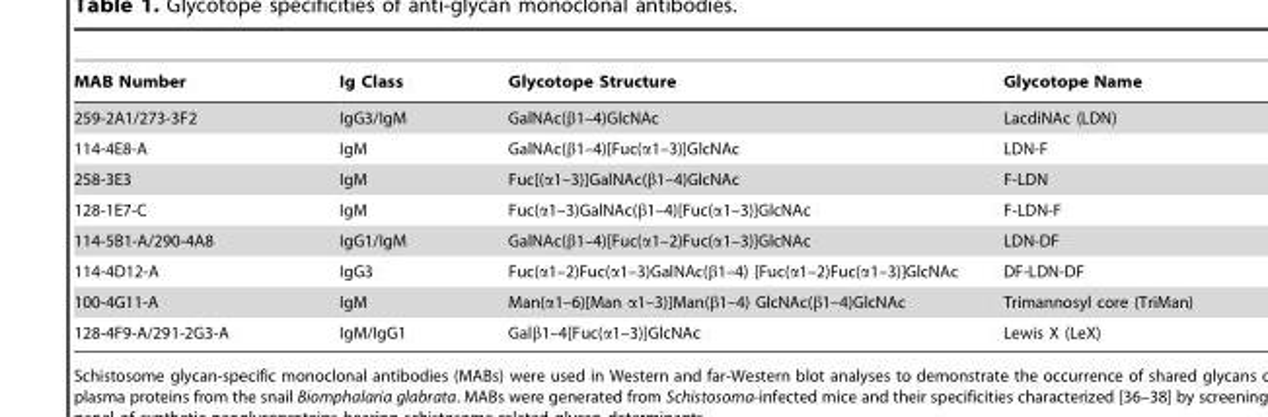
<table><thead><tr><td>MAB Number</td><td>Ig Class</td><td>Glycotope Structure</td><td>Glycotope Name</td></tr></thead><tbody><tr><td>259-2A1/273-3F2</td><td>IgG3/IgM</td><td>GalNAc(β1–4)GlcNAc</td><td>LacdiNAc (LDN)</td></tr><tr><td>114-4E8-A</td><td>IgM</td><td>GalNAc(β1–4)[Fuc(α1–3)]GlcNAc</td><td>LDN-F</td></tr><tr><td>258-3E3</td><td>IgM</td><td>Fuc[(α1–3)]GalNAc(β1–4)GlcNAc</td><td>F-LDN</td></tr><tr><td>128-1E7-C</td><td>IgM</td><td>Fuc(α1–3)GalNAc(β1–4)[Fuc(α1–3)]GlcNAc</td><td>F-LDN-F</td></tr><tr><td>114-5B1-A/290-4A8</td><td>IgG1/IgM</td><td>GalNAc(β1–4)[Fuc(α1–2)Fuc(α1–3)]GlcNAc</td><td>LDN-DF</td></tr><tr><td>114-4D12-A</td><td>IgG3</td><td>Fuc(α1–2)Fuc(α1–3)GalNAc(β1–4) [Fuc(α1–2)Fuc(α1–3)]GlcNAc</td><td>DF-LDN-DF</td></tr><tr><td>100-4G11-A</td><td>IgM</td><td>Man(α1–6)[Man α1–3)]Man(β1–4) GlcNAc(β1–4)GlcNAc</td><td>Trimannosyl core (TriMan)</td></tr><tr><td>128-4F9-A/291-2G3-A</td><td>IgM/IgG1</td><td>Galβ1–4[Fuc(α1–3)]GlcNAc</td><td>Lewis X (LeX)</td></tr></tbody></table>